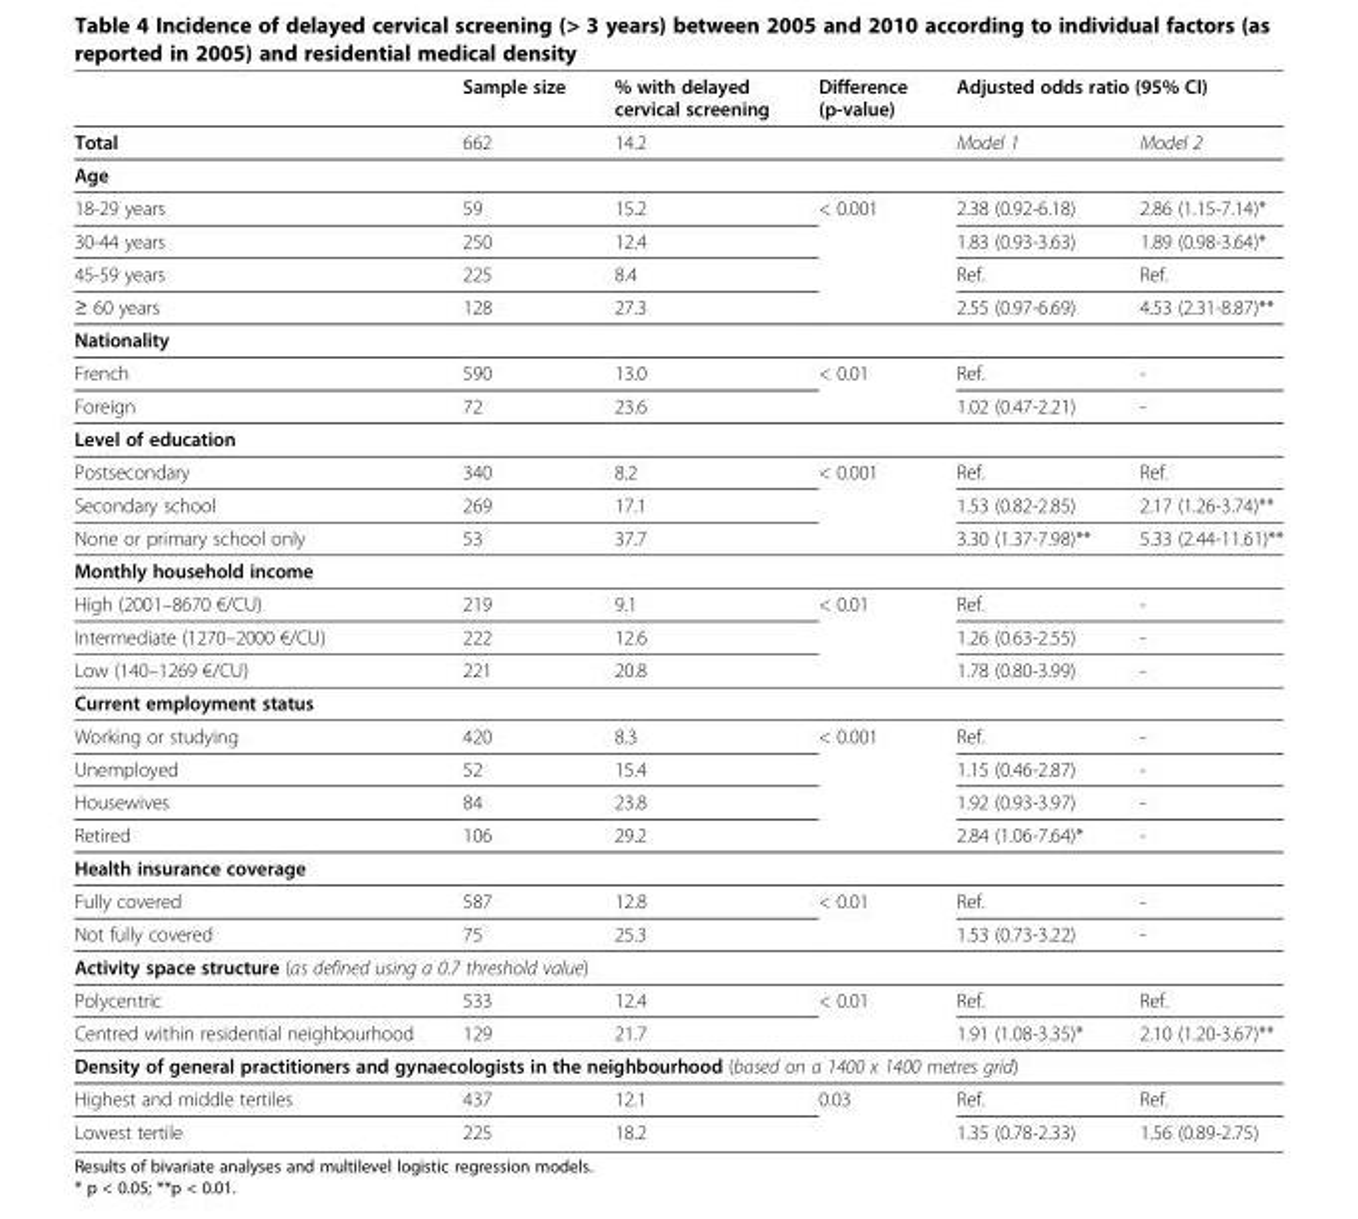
<table><thead><tr><td rowspan="2">Total</td><td rowspan="2">Sample size 662</td><td rowspan="2">% with delayed cervical screening 14.2</td><td rowspan="2">Difference (p-value)</td><td colspan="2">Adjusted odds ratio (95% CI)</td></tr><tr><td>Model 1</td><td>Model 2</td></tr></thead><tbody><tr><td colspan="6">Age</td></tr><tr><td>18-29 years</td><td>59</td><td>15.2</td><td rowspan="4">&lt; 0.001</td><td>2.38 (0.92-6.18)</td><td>2.86 (1.15-7.14)*</td></tr><tr><td>30-44 years</td><td>250</td><td>12.4</td><td>1.83 (0.93-3.63)</td><td>1.89 (0.98-3.64)*</td></tr><tr><td>45-59 years</td><td>225</td><td>8.4</td><td>Ref.</td><td>Ref.</td></tr><tr><td>≥ 60 years</td><td>128</td><td>27.3</td><td>2.55 (0.97-6.69)</td><td>4.53 (2.31-8.87)**</td></tr><tr><td colspan="6">Nationality</td></tr><tr><td>French</td><td>590</td><td>13.0</td><td>&lt; 0.01</td><td>Ref.</td><td>-</td></tr><tr><td>Foreign</td><td>72</td><td>23.6</td><td></td><td>1.02 (0.47-2.21)</td><td>-</td></tr><tr><td colspan="6">Level of education</td></tr><tr><td>Postsecondary</td><td>340</td><td>8.2</td><td rowspan="3">&lt; 0.001</td><td>Ref.</td><td>Ref.</td></tr><tr><td>Secondary school</td><td>269</td><td>17.1</td><td>1.53 (0.82-2.85)</td><td>2.17 (1.26-3.74)**</td></tr><tr><td>None or primary school only</td><td>53</td><td>37.7</td><td>3.30 (1.37-7.98)**</td><td>5.33 (2.44-11.61)**</td></tr><tr><td colspan="6">Monthly household income</td></tr><tr><td>High (2001–8670 €/CU)</td><td>219</td><td>9.1</td><td rowspan="3">&lt; 0.01</td><td>Ref.</td><td>-</td></tr><tr><td>Intermediate (1270–2000 €/CU)</td><td>222</td><td>12.6</td><td>1.26 (0.63-2.55)</td><td>-</td></tr><tr><td>Low (140–1269 €/CU)</td><td>221</td><td>20.8</td><td>1.78 (0.80-3.99)</td><td>-</td></tr><tr><td colspan="6">Current employment status</td></tr><tr><td>Working or studying</td><td>420</td><td>8.3</td><td>&lt; 0.001</td><td>Ref.</td><td>-</td></tr><tr><td>Unemployed</td><td>52</td><td>15.4</td><td></td><td>1.15 (0.46-2.87)</td><td>-</td></tr><tr><td>Housewives</td><td>84</td><td>23.8</td><td></td><td>1.92 (0.93-3.97)</td><td>-</td></tr><tr><td>Retired</td><td>106</td><td>29.2</td><td></td><td>2.84 (1.06-7.64)*</td><td>-</td></tr><tr><td colspan="6">Health insurance coverage</td></tr><tr><td>Fully covered</td><td>587</td><td>12.8</td><td rowspan="2">&lt; 0.01</td><td>Ref.</td><td>-</td></tr><tr><td>Not fully covered</td><td>75</td><td>25.3</td><td>1.53 (0.73-3.22)</td><td>-</td></tr><tr><td colspan="6">Activity space structure (as defined using a 0.7 threshold value)</td></tr><tr><td>Polycentric</td><td>533</td><td>12.4</td><td rowspan="2">&lt; 0.01</td><td>Ref.</td><td>Ref.</td></tr><tr><td>Centred within residential neighbourhood</td><td>129</td><td>21.7</td><td>1.91 (1.08-3.35)*</td><td>2.10 (1.20-3.67)**</td></tr><tr><td colspan="6">Density of general practitioners and gynaecologists in the neighbourhood (based on a 1400 x 1400 metres grid)</td></tr><tr><td>Highest and middle tertiles</td><td>437</td><td>12.1</td><td>0.03</td><td>Ref.</td><td>Ref.</td></tr><tr><td>Lowest tertile</td><td>225</td><td>18.2</td><td></td><td>1.35 (0.78-2.33)</td><td>1.56 (0.89-2.75)</td></tr></tbody></table>